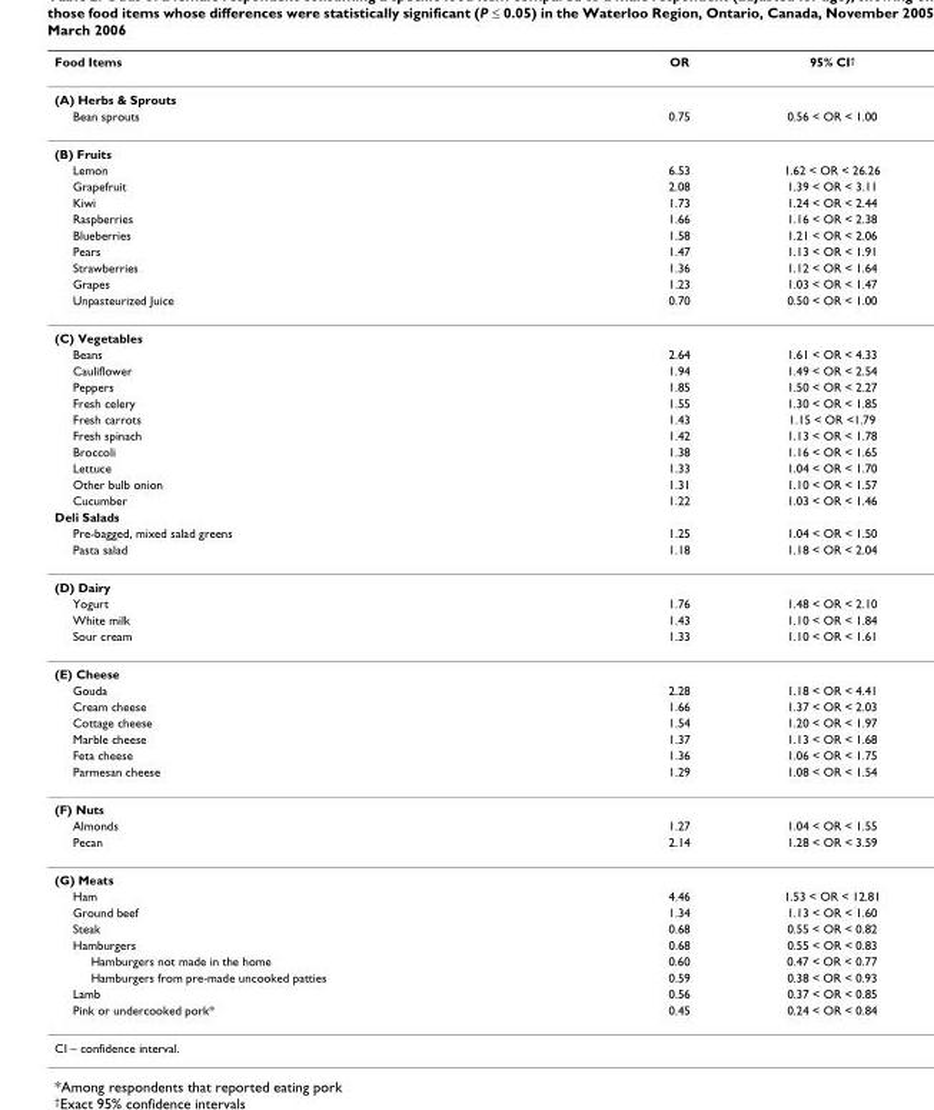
<table><thead><tr><td>Food Items</td><td>OR</td><td>95% CI<sup>†</sup></td></tr></thead><tbody><tr><td colspan="3">(A) Herbs &amp; Sprouts</td></tr><tr><td>Bean sprouts</td><td>0.75</td><td>0.56 &lt; OR &lt; 1.00</td></tr><tr><td colspan="3">(B) Fruits</td></tr><tr><td>Lemon</td><td>6.53</td><td>1.62 &lt; OR &lt; 26.26</td></tr><tr><td>Grapefruit</td><td>2.08</td><td>1.39 &lt; OR &lt; 3.11</td></tr><tr><td>Kiwi</td><td>1.73</td><td>1.24 &lt; OR &lt; 2.44</td></tr><tr><td>Raspberries</td><td>1.66</td><td>1.16 &lt; OR &lt; 2.38</td></tr><tr><td>Blueberries</td><td>1.58</td><td>1.21 &lt; OR &lt; 2.06</td></tr><tr><td>Pears</td><td>1.47</td><td>1.13 &lt; OR &lt; 1.91</td></tr><tr><td>Strawberries</td><td>1.36</td><td>1.12 &lt; OR &lt; 1.64</td></tr><tr><td>Grapes</td><td>1.23</td><td>1.03 &lt; OR &lt; 1.47</td></tr><tr><td>Unpasteurized Juice</td><td>0.70</td><td>0.50 &lt; OR &lt; 1.00</td></tr><tr><td colspan="3">(C) Vegetables</td></tr><tr><td>Beans</td><td>2.64</td><td>1.61 &lt; OR &lt; 4.33</td></tr><tr><td>Cauliflower</td><td>1.94</td><td>1.49 &lt; OR &lt; 2.54</td></tr><tr><td>Peppers</td><td>1.85</td><td>1.50 &lt; OR &lt; 2.27</td></tr><tr><td>Fresh celery</td><td>1.55</td><td>1.30 &lt; OR &lt; 1.85</td></tr><tr><td>Fresh carrots</td><td>1.43</td><td>1.15 &lt; OR &lt;1.79</td></tr><tr><td>Fresh spinach</td><td>1.42</td><td>1.13 &lt; OR &lt; 1.78</td></tr><tr><td>Broccoli</td><td>1.38</td><td>1.16 &lt; OR &lt; 1.65</td></tr><tr><td>Lettuce</td><td>1.33</td><td>1.04 &lt; OR &lt; 1.70</td></tr><tr><td>Other bulb onion</td><td>1.31</td><td>1.10 &lt; OR &lt; 1.57</td></tr><tr><td>Cucumber</td><td>1.22</td><td>1.03 &lt; OR &lt; 1.46</td></tr><tr><td colspan="3">Deli Salads</td></tr><tr><td>Pre-bagged, mixed salad greens</td><td>1.25</td><td>1.04 &lt; OR &lt; 1.50</td></tr><tr><td>Pasta salad</td><td>1.18</td><td>1.18 &lt; OR &lt; 2.04</td></tr><tr><td colspan="3">(D) Dairy</td></tr><tr><td>Yogurt</td><td>1.76</td><td>1.48 &lt; OR &lt; 2.10</td></tr><tr><td>White milk</td><td>1.43</td><td>1.10 &lt; OR &lt; 1.84</td></tr><tr><td>Sour cream</td><td>1.33</td><td>1.10 &lt; OR &lt; 1.61</td></tr><tr><td colspan="3">(E) Cheese</td></tr><tr><td>Gouda</td><td>2.28</td><td>1.18 &lt; OR &lt; 4.41</td></tr><tr><td>Cream cheese</td><td>1.66</td><td>1.37 &lt; OR &lt; 2.03</td></tr><tr><td>Cottage cheese</td><td>1.54</td><td>1.20 &lt; OR &lt; 1.97</td></tr><tr><td>Marble cheese</td><td>1.37</td><td>1.13 &lt; OR &lt; 1.68</td></tr><tr><td>Feta cheese</td><td>1.36</td><td>1.06 &lt; OR &lt; 1.75</td></tr><tr><td>Parmesan cheese</td><td>1.29</td><td>1.08 &lt; OR &lt; 1.54</td></tr><tr><td colspan="3">(F) Nuts</td></tr><tr><td>Almonds</td><td>1.27</td><td>1.04 &lt; OR &lt; 1.55</td></tr><tr><td>Pecan</td><td>2.14</td><td>1.28 &lt; OR &lt; 3.59</td></tr><tr><td colspan="3">(G) Meats</td></tr><tr><td>Ham</td><td>4.46</td><td>1.53 &lt; OR &lt; 12.81</td></tr><tr><td>Ground beef</td><td>1.34</td><td>1.13 &lt; OR &lt; 1.60</td></tr><tr><td>Steak</td><td>0.68</td><td>0.55 &lt; OR &lt; 0.82</td></tr><tr><td>Hamburgers</td><td>0.68</td><td>0.55 &lt; OR &lt; 0.83</td></tr><tr><td>Hamburgers not made in the home</td><td>0.60</td><td>0.47 &lt; OR &lt; 0.77</td></tr><tr><td>Hamburgers from pre-made uncooked patties</td><td>0.59</td><td>0.38 &lt; OR &lt; 0.93</td></tr><tr><td>Lamb</td><td>0.56</td><td>0.37 &lt; OR &lt; 0.85</td></tr><tr><td>Pink or undercooked pork*</td><td>0.45</td><td>0.24 &lt; OR &lt; 0.84</td></tr><tr><td>CI – confidence interval.</td><td></td><td></td></tr></tbody></table>